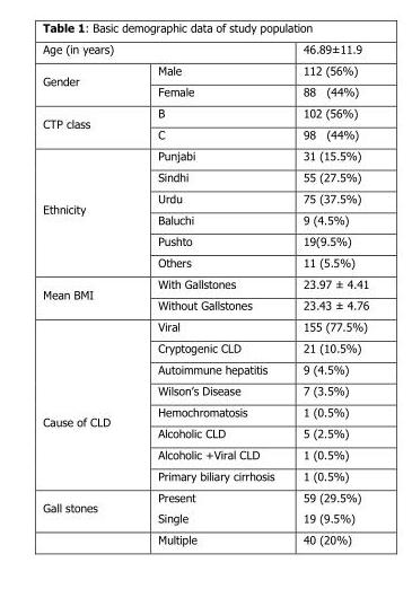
<table><tbody><tr><td colspan="2">Age (in years)</td><td>46.89±11.9</td></tr><tr><td rowspan="2">Gender</td><td>Male</td><td>112 (56%)</td></tr><tr><td>Female</td><td>88 (44%)</td></tr><tr><td rowspan="2">CTP class</td><td>B</td><td>102 (56%)</td></tr><tr><td>C</td><td>98 (44%)</td></tr><tr><td rowspan="6">Ethnicity</td><td>Punjabi</td><td>31 (15.5%)</td></tr><tr><td>Sindhi</td><td>55 (27.5%)</td></tr><tr><td>Urdu</td><td>75 (37.5%)</td></tr><tr><td>Baluchi</td><td>9 (4.5%)</td></tr><tr><td>Pushto</td><td>19(9.5%)</td></tr><tr><td>Others</td><td>11 (5.5%)</td></tr><tr><td rowspan="2">Mean BMI</td><td>With Gallstones</td><td>23.97 ± 4.41</td></tr><tr><td>Without Gallstones</td><td>23.43 ± 4.76</td></tr><tr><td rowspan="8">Cause of CLD</td><td>Viral</td><td>155 (77.5%)</td></tr><tr><td>Cryptogenic CLD</td><td>21 (10.5%)</td></tr><tr><td>Autoimmune hepatitis</td><td>9 (4.5%)</td></tr><tr><td>Wilson’s Disease</td><td>7 (3.5%)</td></tr><tr><td>Hemochromatosis</td><td>1 (0.5%)</td></tr><tr><td>Alcoholic CLD</td><td>5 (2.5%)</td></tr><tr><td>Alcoholic +Viral CLD</td><td>1 (0.5%)</td></tr><tr><td>Primary biliary cirrhosis</td><td>1 (0.5%)</td></tr><tr><td rowspan="2">Gall stones</td><td>Present Single</td><td>59 (29.5%) 19 (9.5%)</td></tr><tr><td>Multiple</td><td>40 (20%)</td></tr></tbody></table>